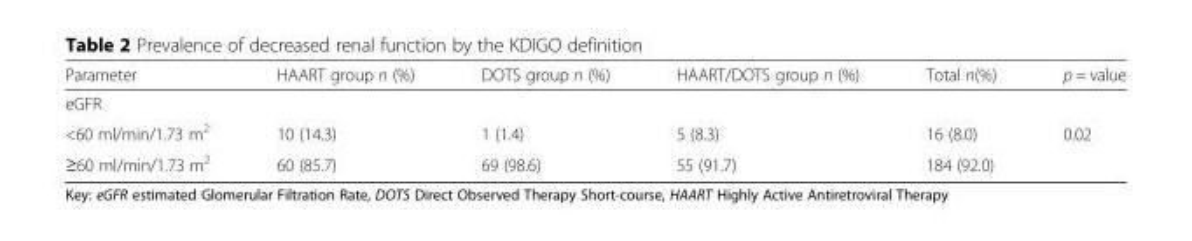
<table><thead><tr><td>Parameter</td><td>HAART group n (%)</td><td>DOTS group n (%)</td><td>HAART/DOTS group n (%)</td><td>Total n(%)</td><td>p = value</td></tr></thead><tbody><tr><td colspan="6">eGFR</td></tr><tr><td>&lt;60 ml/min/1.73 m<sup>2</sup></td><td>10 (14.3)</td><td>1 (1.4)</td><td>5 (8.3)</td><td>16 (8.0)</td><td>0.02</td></tr><tr><td>≥60 ml/min/1.73 m<sup>2</sup></td><td>60 (85.7)</td><td>69 (98.6)</td><td>55 (91.7)</td><td>184 (92.0)</td><td></td></tr></tbody></table>